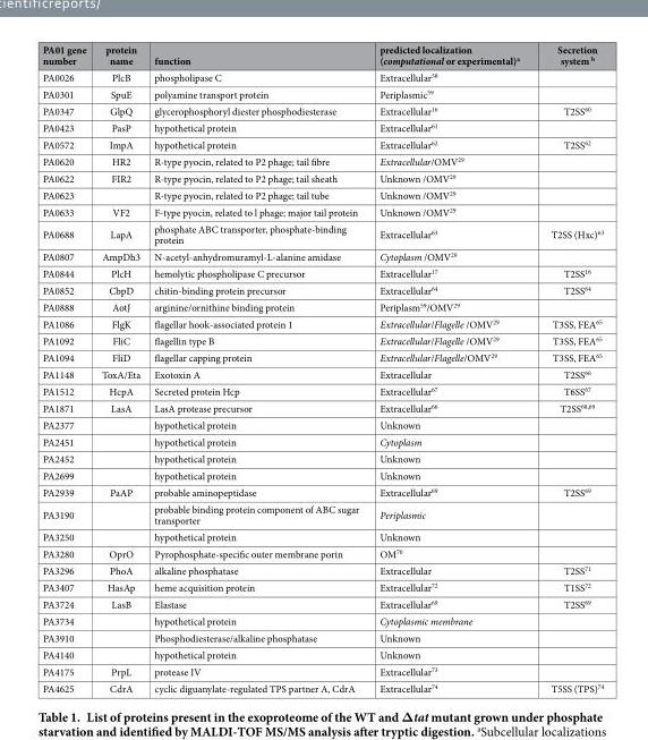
<table><thead><tr><td>PA01 gene number</td><td>protein name</td><td>function</td><td>predicted localization (computational or experimental)<sup>a</sup></td><td>Secretion system b</td></tr></thead><tbody><tr><td>PA0026</td><td>PlcB</td><td>phospholipase C</td><td>Extracellular<sup>58</sup></td><td></td></tr><tr><td>PA0301</td><td>SpuE</td><td>polyamine transport protein</td><td>Periplasmic<sup>59</sup></td><td></td></tr><tr><td>PA0347</td><td>GlpQ</td><td>glycerophosphoryl diester phosphodiesterase</td><td>Extracellular<sup>16</sup></td><td>T2SS<sup>60</sup></td></tr><tr><td>PA0423</td><td>PasP</td><td>hypothetical protein</td><td>Extracellular<sup>61</sup></td><td></td></tr><tr><td>PA0572</td><td>ImpA</td><td>hypothetical protein</td><td>Extracellular<sup>62</sup></td><td>T2SS<sup>62</sup></td></tr><tr><td>PA0620</td><td>HR2</td><td>R-type pyocin, related to P2 phage; tail fibre</td><td>Extracellular/OMV<sup>29</sup></td><td></td></tr><tr><td>PA0622</td><td>FIR2</td><td>R-type pyocin, related to P2 phage; tail sheath</td><td>Unknown /OMV<sup>29</sup></td><td></td></tr><tr><td>PA0623</td><td></td><td>R-type pyocin, related to P2 phage; tail tube</td><td>Unknown /OMV<sup>29</sup></td><td></td></tr><tr><td>PA0633</td><td>VF2</td><td>F-type pyocin, related to l phage; major tail protein</td><td>Unknown /OMV<sup>29</sup></td><td></td></tr><tr><td>PA0688</td><td>LapA</td><td>phosphate ABC transporter, phosphate-binding protein</td><td>Extracellular<sup>63</sup></td><td>T2SS (Hxc)<sup>63</sup></td></tr><tr><td>PA0807</td><td>AmpDh3</td><td>N-acetyl-anhydromuramyl-L-alanine amidase</td><td>Cytoplasm /OMV<sup>29</sup></td><td></td></tr><tr><td>PA0844</td><td>PlcH</td><td>hemolytic phospholipase C precursor</td><td>Extracellular<sup>17</sup></td><td>T2SS<sup>16</sup></td></tr><tr><td>PA0852</td><td>CbpD</td><td>chitin-binding protein precursor</td><td>Extracellular<sup>64</sup></td><td>T2SS<sup>64</sup></td></tr><tr><td>PA0888</td><td>AotJ</td><td>arginine/ornithine binding protein</td><td>Periplasm<sup>59</sup>/OMV<sup>29</sup></td><td></td></tr><tr><td>PA1086</td><td>FlgK</td><td>flagellar hook-associated protein 1</td><td>Extracellular/Flagelle /OMV<sup>29</sup></td><td>T3SS, FEA<sup>65</sup></td></tr><tr><td>PA1092</td><td>FliC</td><td>flagellin type B</td><td>Extracellular/Flagelle /OMV<sup>29</sup></td><td>T3SS, FEA<sup>65</sup></td></tr><tr><td>PA1094</td><td>FliD</td><td>flagellar capping protein</td><td>Extracellular/Flagelle/OMV<sup>29</sup></td><td>T3SS, FEA<sup>65</sup></td></tr><tr><td>PA1148</td><td>ToxA/Eta</td><td>Exotoxin A</td><td>Extracellular</td><td>T2SS<sup>66</sup></td></tr><tr><td>PA1512</td><td>HcpA</td><td>Secreted protein Hcp</td><td>Extracellular<sup>67</sup></td><td>T6SS<sup>67</sup></td></tr><tr><td>PA1871</td><td>LasA</td><td>LasA protease precursor</td><td>Extracellular<sup>66</sup></td><td>T2SS<sup>68</sup>,<sup>69</sup></td></tr><tr><td>PA2377</td><td></td><td>hypothetical protein</td><td>Unknown</td><td></td></tr><tr><td>PA2451</td><td></td><td>hypothetical protein</td><td>Cytoplasm</td><td></td></tr><tr><td>PA2452</td><td></td><td>hypothetical protein</td><td>Unknown</td><td></td></tr><tr><td>PA2699</td><td></td><td>hypothetical protein</td><td>Unknown</td><td></td></tr><tr><td>PA2939</td><td>PaAP</td><td>probable aminopeptidase</td><td>Extracellular<sup>69</sup></td><td>T2SS<sup>69</sup></td></tr><tr><td>PA3190</td><td></td><td>probable binding protein component of ABC sugar transporter</td><td>Periplasmic</td><td></td></tr><tr><td>PA3250</td><td></td><td>hypothetical protein</td><td>Unknown</td><td></td></tr><tr><td>PA3280</td><td>OprO</td><td>Pyrophosphate-specific outer membrane porin</td><td>OM<sup>70</sup></td><td></td></tr><tr><td>PA3296</td><td>PhoA</td><td>alkaline phosphatase</td><td>Extracellular</td><td>T2SS<sup>71</sup></td></tr><tr><td>PA3407</td><td>HasAp</td><td>heme acquisition protein</td><td>Extracellular<sup>72</sup></td><td>T1SS<sup>72</sup></td></tr><tr><td>PA3724</td><td>LasB</td><td>Elastase</td><td>Extracellular<sup>69</sup></td><td>T2SS<sup>69</sup></td></tr><tr><td>PA3734</td><td></td><td>hypothetical protein</td><td>Cytoplasmic membrane</td><td></td></tr><tr><td>PA3910</td><td></td><td>Phosphodiesterase/alkaline phosphatase</td><td>Unknown</td><td></td></tr><tr><td>PA4140</td><td></td><td>hypothetical protein</td><td>Unknown</td><td></td></tr><tr><td>PA4175</td><td>PrpL</td><td>protease IV</td><td>Extracellular<sup>73</sup></td><td></td></tr><tr><td>PA4625</td><td>CdrA</td><td>cyclic diguanylate-regulated TPS partner A, CdrA</td><td>Extracellular<sup>74</sup></td><td>T5SS (TPS)<sup>74</sup></td></tr></tbody></table>